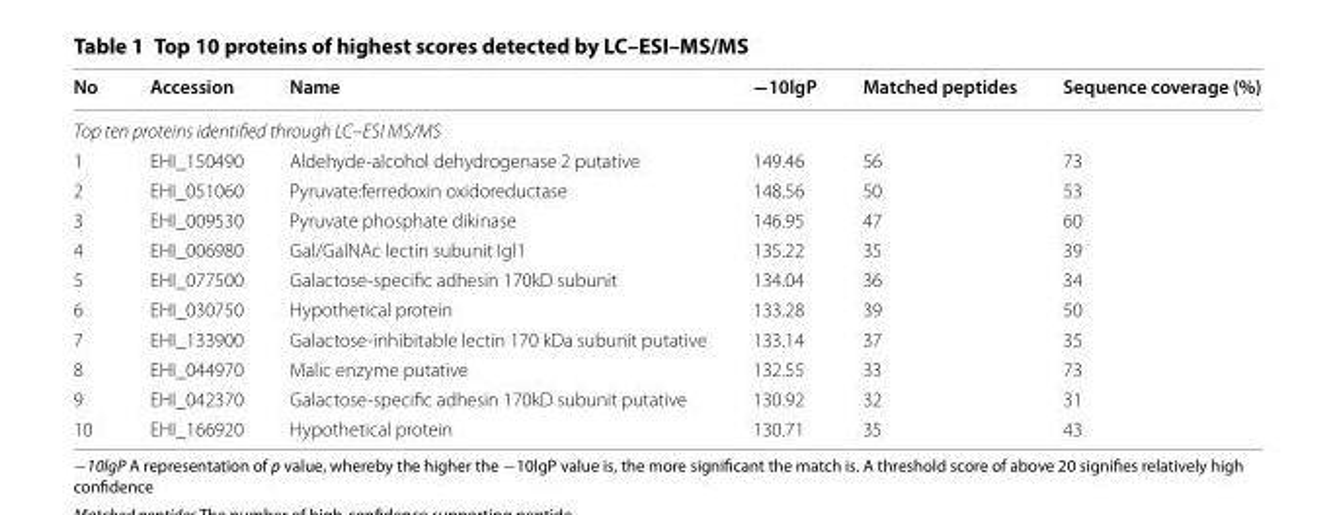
<table><thead><tr><td>No</td><td>Accession</td><td>Name</td><td>−10lgP</td><td>Matched peptides</td><td>Sequence coverage (%)</td></tr></thead><tbody><tr><td colspan="6">Top ten proteins identified through LC–ESI MS/MS</td></tr><tr><td>1</td><td>EHI_150490</td><td>Aldehyde-alcohol dehydrogenase 2 putative</td><td>149.46</td><td>56</td><td>73</td></tr><tr><td>2</td><td>EHI_051060</td><td>Pyruvate:ferredoxin oxidoreductase</td><td>148.56</td><td>50</td><td>53</td></tr><tr><td>3</td><td>EHI_009530</td><td>Pyruvate phosphate dikinase</td><td>146.95</td><td>47</td><td>60</td></tr><tr><td>4</td><td>EHI_006980</td><td>Gal/GalNAc lectin subunit Igl1</td><td>135.22</td><td>35</td><td>39</td></tr><tr><td>5</td><td>EHI_077500</td><td>Galactose-specific adhesin 170kD subunit</td><td>134.04</td><td>36</td><td>34</td></tr><tr><td>6</td><td>EHI_030750</td><td>Hypothetical protein</td><td>133.28</td><td>39</td><td>50</td></tr><tr><td>7</td><td>EHI_133900</td><td>Galactose-inhibitable lectin 170 kDa subunit putative</td><td>133.14</td><td>37</td><td>35</td></tr><tr><td>8</td><td>EHI_044970</td><td>Malic enzyme putative</td><td>132.55</td><td>33</td><td>73</td></tr><tr><td>9</td><td>EHI_042370</td><td>Galactose-specific adhesin 170kD subunit putative</td><td>130.92</td><td>32</td><td>31</td></tr><tr><td>10</td><td>EHI_166920</td><td>Hypothetical protein</td><td>130.71</td><td>35</td><td>43</td></tr></tbody></table>